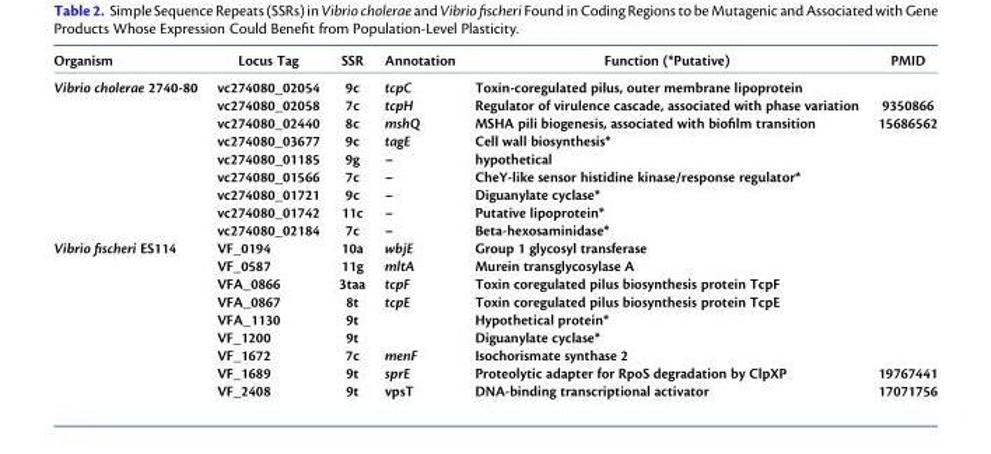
<table><thead><tr><td>Organism</td><td>Locus Tag</td><td>SSR</td><td>Annotation</td><td>Function (*Putative)</td><td>PMID</td></tr></thead><tbody><tr><td rowspan="9">Vibrio cholerae 2740-80</td><td>vc274080_02054</td><td>9c</td><td>tcpC</td><td>Toxin-coregulated pilus, outer membrane lipoprotein</td><td></td></tr><tr><td>vc274080_02058</td><td>7c</td><td>tcpH</td><td>Regulator of virulence cascade, associated with phase variation</td><td>9350866</td></tr><tr><td>vc274080_02440</td><td>8c</td><td>mshQ</td><td>MSHA pili biogenesis, associated with biofilm transition</td><td>15686562</td></tr><tr><td>vc274080_03677</td><td>9c</td><td>tagE</td><td>Cell wall biosynthesis*</td><td></td></tr><tr><td>vc274080_01185</td><td>9g</td><td>–</td><td>hypothetical</td><td></td></tr><tr><td>vc274080_01566</td><td>7c</td><td>–</td><td>CheY-like sensor histidine kinase/response regulator*</td><td></td></tr><tr><td>vc274080_01721</td><td>9c</td><td>–</td><td>Diguanylate cyclase*</td><td></td></tr><tr><td>vc274080_01742</td><td>11c</td><td>–</td><td>Putative lipoprotein*</td><td></td></tr><tr><td>vc274080_02184</td><td>7c</td><td>–</td><td>Beta-hexosaminidase*</td><td></td></tr><tr><td rowspan="9">Vibrio fischeri ES114</td><td>VF_0194</td><td>10a</td><td>wbjE</td><td>Group 1 glycosyl transferase</td><td></td></tr><tr><td>VF_0587</td><td>11g</td><td>mltA</td><td>Murein transglycosylase A</td><td></td></tr><tr><td>VFA_0866</td><td>3taa</td><td>tcpF</td><td>Toxin coregulated pilus biosynthesis protein TcpF</td><td></td></tr><tr><td>VFA_0867</td><td>8t</td><td>tcpE</td><td>Toxin coregulated pilus biosynthesis protein TcpE</td><td></td></tr><tr><td>VFA_1130</td><td>9t</td><td></td><td>Hypothetical protein*</td><td></td></tr><tr><td>VF_1200</td><td>9t</td><td></td><td>Diguanylate cyclase*</td><td></td></tr><tr><td>VF_1672</td><td>7c</td><td>menF</td><td>Isochorismate synthase 2</td><td></td></tr><tr><td>VF_1689</td><td>9t</td><td>sprE</td><td>Proteolytic adapter for RpoS degradation by ClpXP</td><td>19767441</td></tr><tr><td>VF_2408</td><td>9t</td><td>vpsT</td><td>DNA-binding transcriptional activator</td><td>17071756</td></tr></tbody></table>